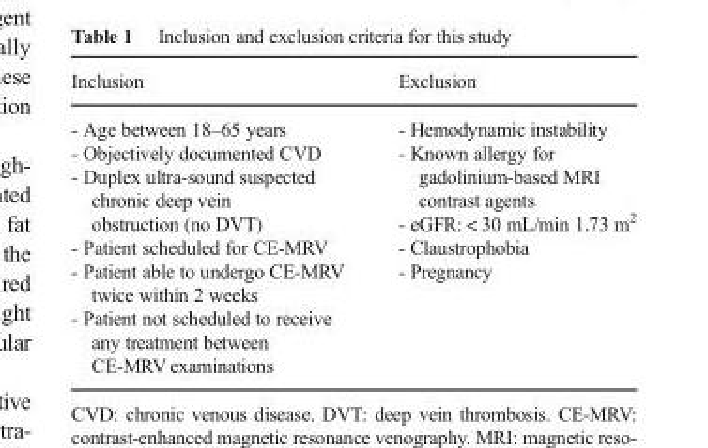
<table><thead><tr><td>Inclusion</td><td>Exclusion</td></tr></thead><tbody><tr><td>- Age between 18–65 years - Objectively documented CVD - Duplex ultra-sound suspected chronic deep vein obstruction (no DVT) - Patient scheduled for CE-MRV - Patient able to undergo CE-MRV twice within 2 weeks - Patient not scheduled to receive any treatment between CE-MRV examinations</td><td>- Hemodynamic instability - Known allergy for gadolinium-based MRI contrast agents - eGFR: &lt; 30 mL/min 1.73 m<sup>2</sup> - Claustrophobia - Pregnancy</td></tr></tbody></table>